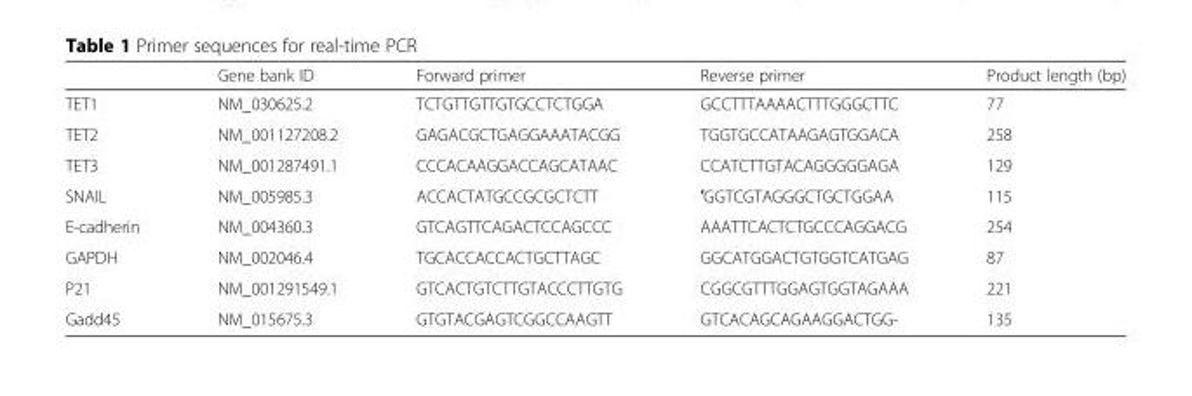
<table><thead><tr><td></td><td>Gene bank ID</td><td>Forward primer</td><td>Reverse primer</td><td>Product length (bp)</td></tr></thead><tbody><tr><td>TET1</td><td>NM_030625.2</td><td>TCTGTTGTTGTGCCTCTGGA</td><td>GCCTTTAAAACTTTGGGCTTC</td><td>77</td></tr><tr><td>TET2</td><td>NM_001127208.2</td><td>GAGACGCTGAGGAAATACGG</td><td>TGGTGCCATAAGAGTGGACA</td><td>258</td></tr><tr><td>TET3</td><td>NM_001287491.1</td><td>CCCACAAGGACCAGCATAAC</td><td>CCATCTTGTACAGGGGGAGA</td><td>129</td></tr><tr><td>SNAIL</td><td>NM_005985.3</td><td>ACCACTATGCCGCGCTCTT</td><td>′GGTCGTAGGGCTGCTGGAA</td><td>115</td></tr><tr><td>E-cadherin</td><td>NM_004360.3</td><td>GTCAGTTCAGACTCCAGCCC</td><td>AAATTCACTCTGCCCAGGACG</td><td>254</td></tr><tr><td>GAPDH</td><td>NM_002046.4</td><td>TGCACCACCACTGCTTAGC</td><td>GGCATGGACTGTGGTCATGAG</td><td>87</td></tr><tr><td>P21</td><td>NM_001291549.1</td><td>GTCACTGTCTTGTACCCTTGTG</td><td>CGGCGTTTGGAGTGGTAGAAA</td><td>221</td></tr><tr><td>Gadd45</td><td>NM_015675.3</td><td>GTGTACGAGTCGGCCAAGTT</td><td>GTCACAGCAGAAGGACTGG-</td><td>135</td></tr></tbody></table>